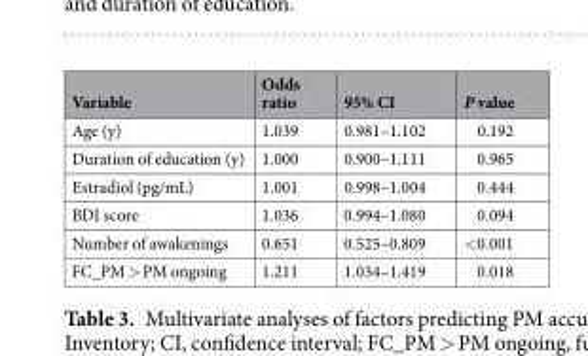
<table><thead><tr><td>Variable</td><td>Odds ratio</td><td>95% CI</td><td>P value</td></tr></thead><tbody><tr><td>Age (y)</td><td>1.039</td><td>0.981–1.102</td><td>0.192</td></tr><tr><td>Duration of education (y)</td><td>1.000</td><td>0.900–1.111</td><td>0.965</td></tr><tr><td>Estradiol (pg/mL)</td><td>1.001</td><td>0.998–1.004</td><td>0.444</td></tr><tr><td>BDI score</td><td>1.036</td><td>0.994–1.080</td><td>0.094</td></tr><tr><td>Number of awakenings</td><td>0.651</td><td>0.525–0.809</td><td>&lt;0.001</td></tr><tr><td>FC_PM &gt; PM ongoing</td><td>1.211</td><td>1.034–1.419</td><td>0.018</td></tr></tbody></table>